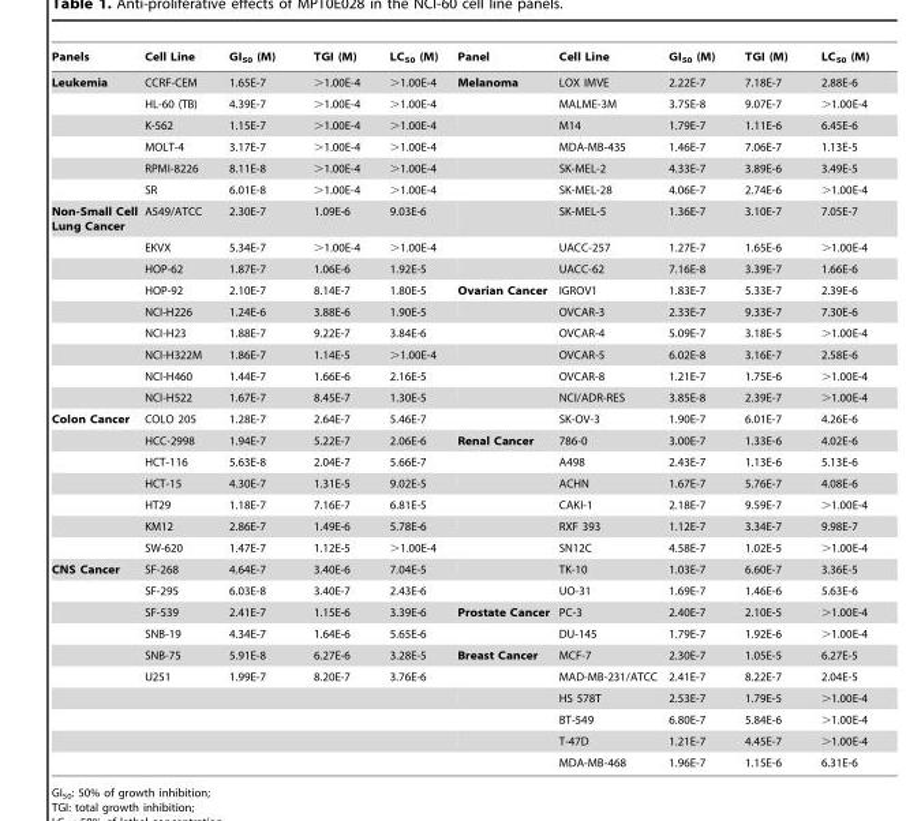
<table><thead><tr><td>Panels</td><td>Cell Line</td><td>GI<sub>50</sub> (M)</td><td>TGI (M)</td><td>LC<sub>50</sub> (M)</td><td>Panel</td><td>Cell Line</td><td>GI<sub>50</sub> (M)</td><td>TGI (M)</td><td>LC<sub>50</sub> (M)</td></tr></thead><tbody><tr><td rowspan="6">Leukemia</td><td>CCRF-CEM</td><td>1.65E-7</td><td>&gt;1.00E-4</td><td>&gt;1.00E-4</td><td>Melanoma</td><td>LOX IMVE</td><td>2.22E-7</td><td>7.18E-7</td><td>2.88E-6</td></tr><tr><td>HL-60 (TB)</td><td>4.39E-7</td><td>&gt;1.00E-4</td><td>&gt;1.00E-4</td><td></td><td>MALME-3M</td><td>3.75E-8</td><td>9.07E-7</td><td>&gt;1.00E-4</td></tr><tr><td>K-562</td><td>1.15E-7</td><td>&gt;1.00E-4</td><td>&gt;1.00E-4</td><td></td><td>M14</td><td>1.79E-7</td><td>1.11E-6</td><td>6.45E-6</td></tr><tr><td>MOLT-4</td><td>3.17E-7</td><td>&gt;1.00E-4</td><td>&gt;1.00E-4</td><td></td><td>MDA-MB-435</td><td>1.46E-7</td><td>7.06E-7</td><td>1.13E-5</td></tr><tr><td>RPMI-8226</td><td>8.11E-8</td><td>&gt;1.00E-4</td><td>&gt;1.00E-4</td><td></td><td>SK-MEL-2</td><td>4.33E-7</td><td>3.89E-6</td><td>3.49E-5</td></tr><tr><td>SR</td><td>6.01E-8</td><td>&gt;1.00E-4</td><td>&gt;1.00E-4</td><td></td><td>SK-MEL-28</td><td>4.06E-7</td><td>2.74E-6</td><td>&gt;1.00E-4</td></tr><tr><td rowspan="9">Non-Small Cell Lung Cancer</td><td>A549/ATCC</td><td>2.30E-7</td><td>1.09E-6</td><td>9.03E-6</td><td></td><td>SK-MEL-5</td><td>1.36E-7</td><td>3.10E-7</td><td>7.05E-7</td></tr><tr><td>EKVX</td><td>5.34E-7</td><td>&gt;1.00E-4</td><td>&gt;1.00E-4</td><td></td><td>UACC-257</td><td>1.27E-7</td><td>1.65E-6</td><td>&gt;1.00E-4</td></tr><tr><td>HOP-62</td><td>1.87E-7</td><td>1.06E-6</td><td>1.92E-5</td><td></td><td>UACC-62</td><td>7.16E-8</td><td>3.39E-7</td><td>1.66E-6</td></tr><tr><td>HOP-92</td><td>2.10E-7</td><td>8.14E-7</td><td>1.80E-5</td><td>Ovarian Cancer</td><td>IGROV1</td><td>1.83E-7</td><td>5.33E-7</td><td>2.39E-6</td></tr><tr><td>NCI-H226</td><td>1.24E-6</td><td>3.88E-6</td><td>1.90E-5</td><td></td><td>OVCAR-3</td><td>2.33E-7</td><td>9.33E-7</td><td>7.30E-6</td></tr><tr><td>NCI-H23</td><td>1.88E-7</td><td>9.22E-7</td><td>3.84E-6</td><td></td><td>OVCAR-4</td><td>5.09E-7</td><td>3.18E-5</td><td>&gt;1.00E-4</td></tr><tr><td>NCI-H322M</td><td>1.86E-7</td><td>1.14E-5</td><td>&gt;1.00E-4</td><td></td><td>OVCAR-5</td><td>6.02E-8</td><td>3.16E-7</td><td>2.58E-6</td></tr><tr><td>NCI-H460</td><td>1.44E-7</td><td>1.66E-6</td><td>2.16E-5</td><td></td><td>OVCAR-8</td><td>1.21E-7</td><td>1.75E-6</td><td>&gt;1.00E-4</td></tr><tr><td>NCI-H522</td><td>1.67E-7</td><td>8.45E-7</td><td>1.30E-5</td><td></td><td>NCI/ADR-RES</td><td>3.85E-8</td><td>2.39E-7</td><td>&gt;1.00E-4</td></tr><tr><td rowspan="7">Colon Cancer</td><td>COLO 205</td><td>1.28E-7</td><td>2.64E-7</td><td>5.46E-7</td><td></td><td>SK-OV-3</td><td>1.90E-7</td><td>6.01E-7</td><td>4.26E-6</td></tr><tr><td>HCC-2998</td><td>1.94E-7</td><td>5.22E-7</td><td>2.06E-6</td><td>Renal Cancer</td><td>786-0</td><td>3.00E-7</td><td>1.33E-6</td><td>4.02E-6</td></tr><tr><td>HCT-116</td><td>5.63E-8</td><td>2.04E-7</td><td>5.66E-7</td><td></td><td>A498</td><td>2.43E-7</td><td>1.13E-6</td><td>5.13E-6</td></tr><tr><td>HCT-15</td><td>4.30E-7</td><td>1.31E-5</td><td>9.02E-5</td><td></td><td>ACHN</td><td>1.67E-7</td><td>5.76E-7</td><td>4.08E-6</td></tr><tr><td>HT29</td><td>1.18E-7</td><td>7.16E-7</td><td>6.81E-5</td><td></td><td>CAKI-1</td><td>2.18E-7</td><td>9.59E-7</td><td>&gt;1.00E-4</td></tr><tr><td>KM12</td><td>2.86E-7</td><td>1.49E-6</td><td>5.78E-6</td><td></td><td>RXF 393</td><td>1.12E-7</td><td>3.34E-7</td><td>9.98E-7</td></tr><tr><td>SW-620</td><td>1.47E-7</td><td>1.12E-5</td><td>&gt;1.00E-4</td><td></td><td>SN12C</td><td>4.58E-7</td><td>1.02E-5</td><td>&gt;1.00E-4</td></tr><tr><td rowspan="6">CNS Cancer</td><td>SF-268</td><td>4.64E-7</td><td>3.40E-6</td><td>7.04E-5</td><td></td><td>TK-10</td><td>1.03E-7</td><td>6.60E-7</td><td>3.36E-5</td></tr><tr><td>SF-295</td><td>6.03E-8</td><td>3.40E-7</td><td>2.43E-6</td><td></td><td>UO-31</td><td>1.69E-7</td><td>1.46E-6</td><td>5.63E-6</td></tr><tr><td>SF-539</td><td>2.41E-7</td><td>1.15E-6</td><td>3.39E-6</td><td>Prostate Cancer</td><td>PC-3</td><td>2.40E-7</td><td>2.10E-5</td><td>&gt;1.00E-4</td></tr><tr><td>SNB-19</td><td>4.34E-7</td><td>1.64E-6</td><td>5.65E-6</td><td></td><td>DU-145</td><td>1.79E-7</td><td>1.92E-6</td><td>&gt;1.00E-4</td></tr><tr><td>SNB-75</td><td>5.91E-8</td><td>6.27E-6</td><td>3.28E-5</td><td>Breast Cancer</td><td>MCF-7</td><td>2.30E-7</td><td>1.05E-5</td><td>6.27E-5</td></tr><tr><td>U251</td><td>1.99E-7</td><td>8.20E-7</td><td>3.76E-6</td><td></td><td>MAD-MB-231/ATCC</td><td>2.41E-7</td><td>8.22E-7</td><td>2.04E-5</td></tr><tr><td colspan="5"></td><td></td><td>HS 578T</td><td>2.53E-7</td><td>1.79E-5</td><td>&gt;1.00E-4</td></tr><tr><td colspan="5"></td><td></td><td>BT-549</td><td>6.80E-7</td><td>5.84E-6</td><td>&gt;1.00E-4</td></tr><tr><td colspan="5"></td><td></td><td>T-47D</td><td>1.21E-7</td><td>4.45E-7</td><td>&gt;1.00E-4</td></tr><tr><td colspan="5"></td><td></td><td>MDA-MB-468</td><td>1.96E-7</td><td>1.15E-6</td><td>6.31E-6</td></tr></tbody></table>